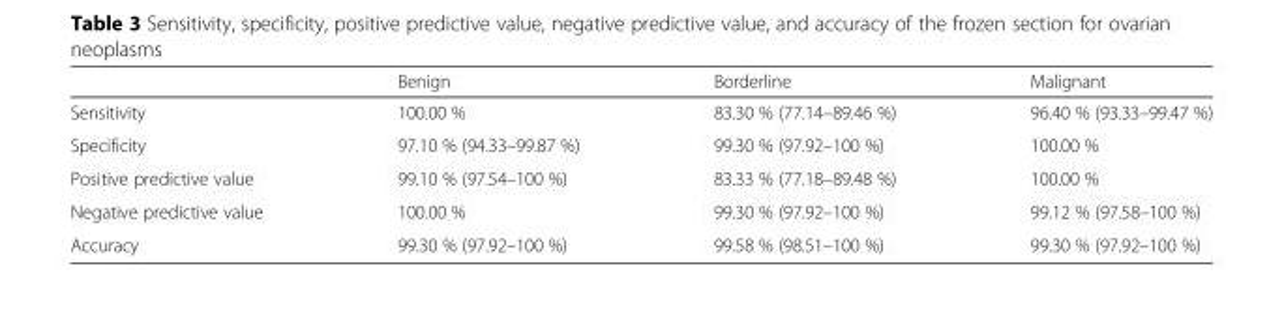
<table><thead><tr><td></td><td>Benign</td><td>Borderline</td><td>Malignant</td></tr></thead><tbody><tr><td>Sensitivity</td><td>100.00 %</td><td>83.30 % (77.14–89.46 %)</td><td>96.40 % (93.33–99.47 %)</td></tr><tr><td>Specificity</td><td>97.10 % (94.33–99.87 %)</td><td>99.30 % (97.92–100 %)</td><td>100.00 %</td></tr><tr><td>Positive predictive value</td><td>99.10 % (97.54–100 %)</td><td>83.33 % (77.18–89.48 %)</td><td>100.00 %</td></tr><tr><td>Negative predictive value</td><td>100.00 %</td><td>99.30 % (97.92–100 %)</td><td>99.12 % (97.58–100 %)</td></tr><tr><td>Accuracy</td><td>99.30 % (97.92–100 %)</td><td>99.58 % (98.51–100 %)</td><td>99.30 % (97.92–100 %)</td></tr></tbody></table>